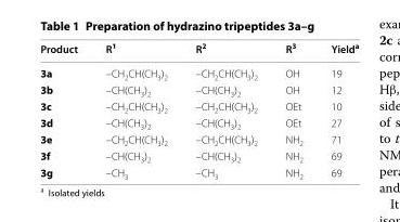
<table><thead><tr><td>Product</td><td>R<sup>1</sup></td><td>R<sup>2</sup></td><td>R<sup>3</sup></td><td>Yield<sup>a</sup></td></tr></thead><tbody><tr><td>3a</td><td>–CH<sub>2</sub>CH(CH<sub>3</sub>)<sub>2</sub></td><td>–CH<sub>2</sub>CH(CH<sub>3</sub>)<sub>2</sub></td><td>OH</td><td>19</td></tr><tr><td>3b</td><td>–CH(CH<sub>3</sub>)<sub>2</sub></td><td>–CH(CH<sub>3</sub>)<sub>2</sub></td><td>OH</td><td>12</td></tr><tr><td>3c</td><td>–CH<sub>2</sub>CH(CH<sub>3</sub>)<sub>2</sub></td><td>–CH<sub>2</sub>CH(CH<sub>3</sub>)<sub>2</sub></td><td>OEt</td><td>10</td></tr><tr><td>3d</td><td>–CH(CH<sub>3</sub>)<sub>2</sub></td><td>–CH(CH<sub>3</sub>)<sub>2</sub></td><td>OEt</td><td>27</td></tr><tr><td>3e</td><td>–CH<sub>2</sub>CH(CH<sub>3</sub>)<sub>2</sub></td><td>–CH<sub>2</sub>CH(CH<sub>3</sub>)<sub>2</sub></td><td>NH<sub>2</sub></td><td>71</td></tr><tr><td>3f</td><td>–CH(CH<sub>3</sub>)<sub>2</sub></td><td>–CH(CH<sub>3</sub>)<sub>2</sub></td><td>NH<sub>2</sub></td><td>69</td></tr><tr><td>3g</td><td>–CH<sub>3</sub></td><td>–CH<sub>3</sub></td><td>NH<sub>2</sub></td><td>69</td></tr></tbody></table>